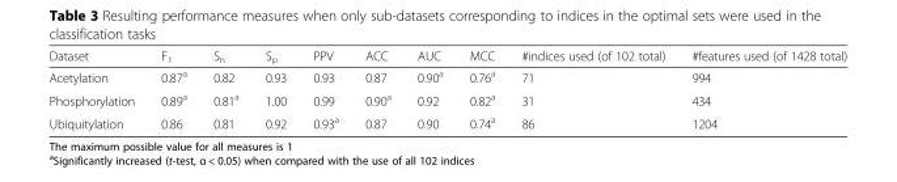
<table><thead><tr><td>Dataset</td><td>F<sub>1</sub></td><td>S<sub>n</sub></td><td>S<sub>p</sub></td><td>PPV</td><td>ACC</td><td>AUC</td><td>MCC</td><td>#indices used (of 102 total)</td><td>#features used (of 1428 total)</td></tr></thead><tbody><tr><td>Acetylation</td><td>0.87<sup>a</sup></td><td>0.82</td><td>0.93</td><td>0.93</td><td>0.87</td><td>0.90<sup>a</sup></td><td>0.76<sup>a</sup></td><td>71</td><td>994</td></tr><tr><td>Phosphorylation</td><td>0.89<sup>a</sup></td><td>0.81<sup>a</sup></td><td>1.00</td><td>0.99</td><td>0.90<sup>a</sup></td><td>0.92</td><td>0.82<sup>a</sup></td><td>31</td><td>434</td></tr><tr><td>Ubiquitylation</td><td>0.86</td><td>0.81</td><td>0.92</td><td>0.93<sup>a</sup></td><td>0.87</td><td>0.90</td><td>0.74<sup>a</sup></td><td>86</td><td>1204</td></tr></tbody></table>